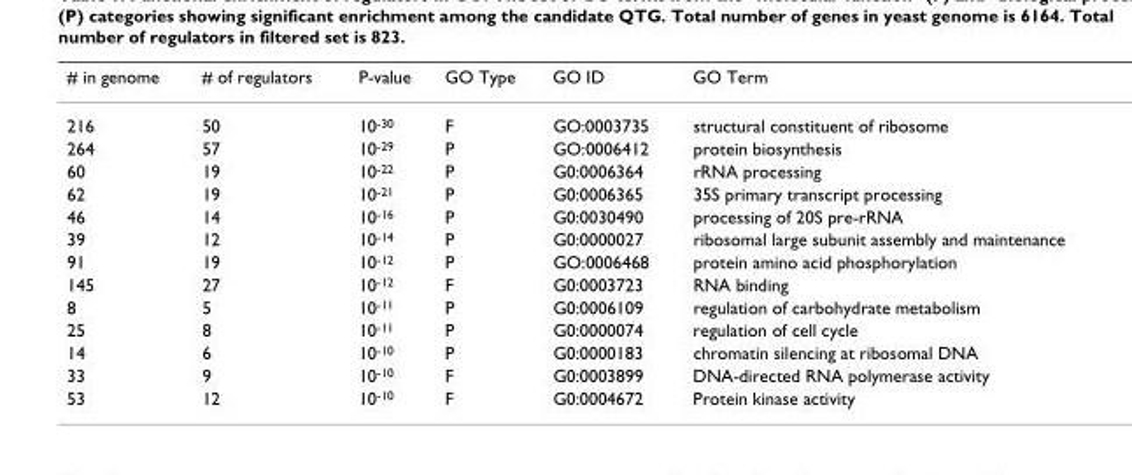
<table><thead><tr><td># in genome</td><td># of regulators</td><td>P-value</td><td>GO Type</td><td>GO ID</td><td>GO Term</td></tr></thead><tbody><tr><td>216</td><td>50</td><td>10<sup>-30</sup></td><td>F</td><td>GO:0003735</td><td>structural constituent of ribosome</td></tr><tr><td>264</td><td>57</td><td>10<sup>-29</sup></td><td>P</td><td>GO:0006412</td><td>protein biosynthesis</td></tr><tr><td>60</td><td>19</td><td>10<sup>-22</sup></td><td>P</td><td>G0:0006364</td><td>rRNA processing</td></tr><tr><td>62</td><td>19</td><td>10<sup>-21</sup></td><td>P</td><td>G0:0006365</td><td>35S primary transcript processing</td></tr><tr><td>46</td><td>14</td><td>10<sup>-16</sup></td><td>P</td><td>G0:0030490</td><td>processing of 20S pre-rRNA</td></tr><tr><td>39</td><td>12</td><td>10<sup>-14</sup></td><td>P</td><td>G0:0000027</td><td>ribosomal large subunit assembly and maintenance</td></tr><tr><td>91</td><td>19</td><td>10<sup>-12</sup></td><td>P</td><td>GO:0006468</td><td>protein amino acid phosphorylation</td></tr><tr><td>145</td><td>27</td><td>10<sup>-12</sup></td><td>F</td><td>G0:0003723</td><td>RNA binding</td></tr><tr><td>8</td><td>5</td><td>10<sup>-11</sup></td><td>P</td><td>G0:0006109</td><td>regulation of carbohydrate metabolism</td></tr><tr><td>25</td><td>8</td><td>10<sup>-11</sup></td><td>P</td><td>G0:0000074</td><td>regulation of cell cycle</td></tr><tr><td>14</td><td>6</td><td>10<sup>-10</sup></td><td>P</td><td>G0:0000183</td><td>chromatin silencing at ribosomal DNA</td></tr><tr><td>33</td><td>9</td><td>10<sup>-10</sup></td><td>F</td><td>G0:0003899</td><td>DNA-directed RNA polymerase activity</td></tr><tr><td>53</td><td>12</td><td>10<sup>-10</sup></td><td>F</td><td>G0:0004672</td><td>Protein kinase activity</td></tr></tbody></table>